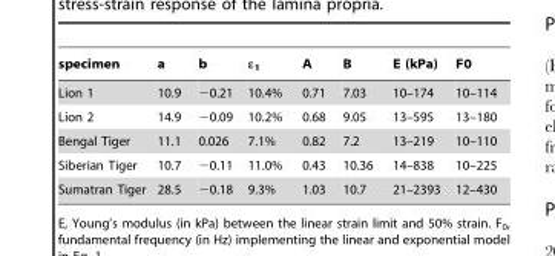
<table><thead><tr><td>specimen</td><td>a</td><td>b</td><td>ε<sub>1</sub></td><td>A</td><td>B</td><td>E (kPa)</td><td>F0</td></tr></thead><tbody><tr><td>Lion 1</td><td>10.9</td><td>−0.21</td><td>10.4%</td><td>0.71</td><td>7.03</td><td>10–174</td><td>10–114</td></tr><tr><td>Lion 2</td><td>14.9</td><td>−0.09</td><td>10.2%</td><td>0.68</td><td>9.05</td><td>13–595</td><td>13–180</td></tr><tr><td>Bengal Tiger</td><td>11.1</td><td>0.026</td><td>7.1%</td><td>0.82</td><td>7.2</td><td>13–219</td><td>10–110</td></tr><tr><td>Siberian Tiger</td><td>10.7</td><td>−0.11</td><td>11.0%</td><td>0.43</td><td>10.36</td><td>14–838</td><td>10–225</td></tr><tr><td>Sumatran Tiger</td><td>28.5</td><td>−0.18</td><td>9.3%</td><td>1.03</td><td>10.7</td><td>21–2393</td><td>12–430</td></tr></tbody></table>